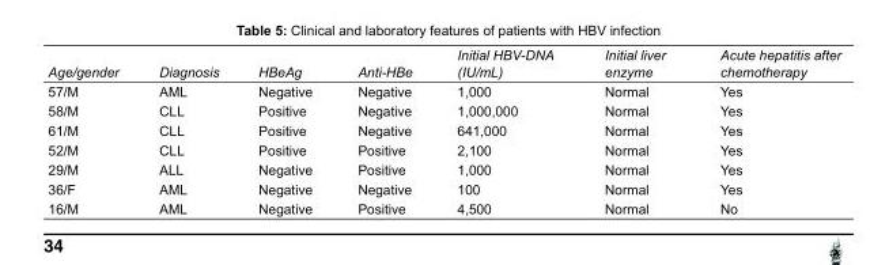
<table><tbody><tr><td>Age/gender</td><td>Diagnosis</td><td>HBeAg</td><td>Anti-HBe</td><td>Initial HBV-DNA (IU/mL)</td><td>Initial liver enzyme</td><td>Acute hepatitis after chemotherapy</td></tr><tr><td>57/M</td><td>AML</td><td>Negative</td><td>Negative</td><td>1,000</td><td>Normal</td><td>Yes</td></tr><tr><td>58/M</td><td>CLL</td><td>Positive</td><td>Negative</td><td>1,000,000</td><td>Normal</td><td>Yes</td></tr><tr><td>61/M</td><td>CLL</td><td>Positive</td><td>Negative</td><td>641,000</td><td>Normal</td><td>Yes</td></tr><tr><td>52/M</td><td>CLL</td><td>Positive</td><td>Positive</td><td>2,100</td><td>Normal</td><td>Yes</td></tr><tr><td>29/M</td><td>ALL</td><td>Negative</td><td>Positive</td><td>1,000</td><td>Normal</td><td>Yes</td></tr><tr><td>36/F</td><td>AML</td><td>Negative</td><td>Negative</td><td>100</td><td>Normal</td><td>Yes</td></tr><tr><td>16/M</td><td>AML</td><td>Negative</td><td>Positive</td><td>4,500</td><td>Normal</td><td>No</td></tr></tbody></table>